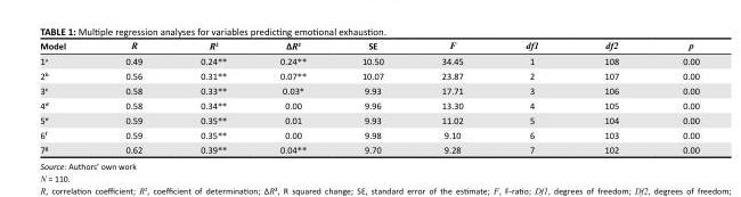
<table><thead><tr><td>Model</td><td>R</td><td>R<sup>2</sup></td><td>ΔR<sup>2</sup></td><td>SE</td><td>F</td><td>df1</td><td>df2</td><td>p</td></tr></thead><tbody><tr><td>1<sup>a</sup></td><td>0.49</td><td>0.24**</td><td>0.24**</td><td>10.50</td><td>34.45</td><td>1</td><td>108</td><td>0.00</td></tr><tr><td>2<sup>ᵇ</sup></td><td>0.56</td><td>0.31**</td><td>0.07**</td><td>10.07</td><td>23.87</td><td>2</td><td>107</td><td>0.00</td></tr><tr><td>3<sup>ᶜ</sup></td><td>0.58</td><td>0.33**</td><td>0.03*</td><td>9.93</td><td>17.71</td><td>3</td><td>106</td><td>0.00</td></tr><tr><td>4<sup>ᵈ</sup></td><td>0.58</td><td>0.34**</td><td>0.00</td><td>9.96</td><td>13.30</td><td>4</td><td>105</td><td>0.00</td></tr><tr><td>5<sup>ᵉ</sup></td><td>0.59</td><td>0.35**</td><td>0.01</td><td>9.93</td><td>11.02</td><td>5</td><td>104</td><td>0.00</td></tr><tr><td>6<sup>ᶠ</sup></td><td>0.59</td><td>0.35**</td><td>0.00</td><td>9.98</td><td>9.10</td><td>6</td><td>103</td><td>0.00</td></tr><tr><td>7ᶢ</td><td>0.62</td><td>0.39**</td><td>0.04**</td><td>9.70</td><td>9.28</td><td>7</td><td>102</td><td>0.00</td></tr></tbody></table>